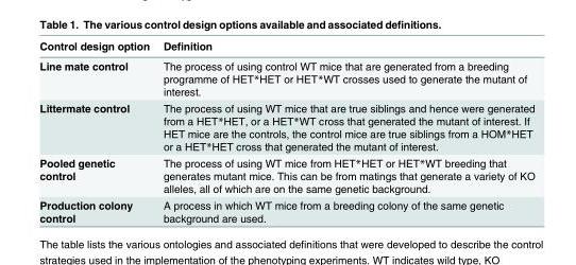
<table><thead><tr><td>Control design option</td><td>Definition</td></tr></thead><tbody><tr><td>Line mate control</td><td>The process of using control WT mice that are generated from a breeding programme of HET*HET or HET*WT crosses used to generate the mutant of interest.</td></tr><tr><td>Littermate control</td><td>The process of using WT mice that are true siblings and hence were generated from a HET*HET, or a HET*WT cross that generated the mutant of interest. If HET mice are the controls, the control mice are true siblings from a HOM*HET or a HET*HET cross that generated the mutant of interest.</td></tr><tr><td>Pooled genetic control</td><td>The process of using WT mice from HET*HET or HET*WT breeding that generates mutant mice. This can be from matings that generate a variety of KO alleles, all of which are on the same genetic background.</td></tr><tr><td>Production colony control</td><td>A process in which WT mice from a breeding colony of the same genetic background are used.</td></tr></tbody></table>